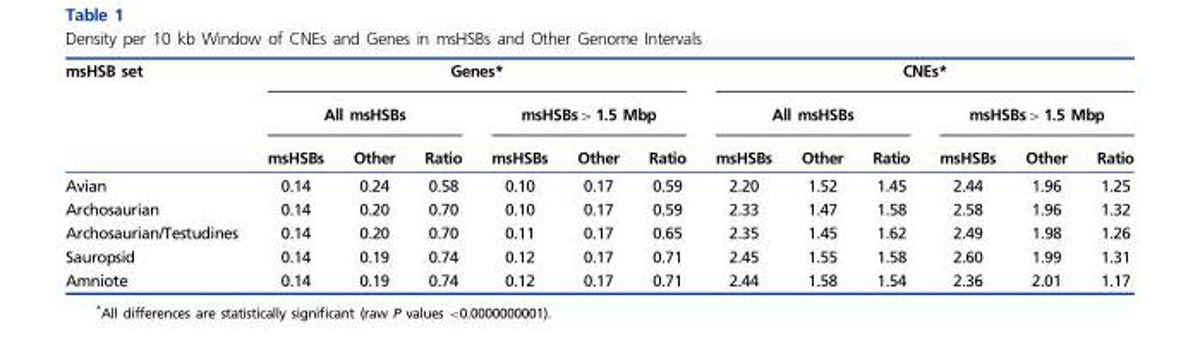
<table><thead><tr><td rowspan="3">msHSB set</td><td colspan="6">Genes*</td><td colspan="6">CNEs*</td></tr><tr><td colspan="3">All msHSBs</td><td colspan="3">msHSBs&gt; 1.5 Mbp</td><td colspan="3">All msHSBs</td><td colspan="3">msHSBs&gt; 1.5 Mbp</td></tr><tr><td>msHSBs</td><td>Other</td><td>Ratio</td><td>msHSBs</td><td>Other</td><td>Ratio</td><td>msHSBs</td><td>Other</td><td>Ratio</td><td>msHSBs</td><td>Other</td><td>Ratio</td></tr></thead><tbody><tr><td>Avian</td><td>0.14</td><td>0.24</td><td>0.58</td><td>0.10</td><td>0.17</td><td>0.59</td><td>2.20</td><td>1.52</td><td>1.45</td><td>2.44</td><td>1.96</td><td>1.25</td></tr><tr><td>Archosaurian</td><td>0.14</td><td>0.20</td><td>0.70</td><td>0.10</td><td>0.17</td><td>0.59</td><td>2.33</td><td>1.47</td><td>1.58</td><td>2.58</td><td>1.96</td><td>1.32</td></tr><tr><td>Archosaurian/Testudines</td><td>0.14</td><td>0.20</td><td>0.70</td><td>0.11</td><td>0.17</td><td>0.65</td><td>2.35</td><td>1.45</td><td>1.62</td><td>2.49</td><td>1.98</td><td>1.26</td></tr><tr><td>Sauropsid</td><td>0.14</td><td>0.19</td><td>0.74</td><td>0.12</td><td>0.17</td><td>0.71</td><td>2.45</td><td>1.55</td><td>1.58</td><td>2.60</td><td>1.99</td><td>1.31</td></tr><tr><td>Amniote</td><td>0.14</td><td>0.19</td><td>0.74</td><td>0.12</td><td>0.17</td><td>0.71</td><td>2.44</td><td>1.58</td><td>1.54</td><td>2.36</td><td>2.01</td><td>1.17</td></tr></tbody></table>